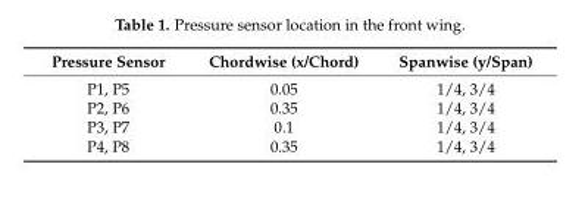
<table><thead><tr><td>Pressure Sensor</td><td>Chordwise (x/Chord)</td><td>Spanwise (y/Span)</td></tr></thead><tbody><tr><td>P1, P5</td><td>0.05</td><td>1/4, 3/4</td></tr><tr><td>P2, P6</td><td>0.35</td><td>1/4, 3/4</td></tr><tr><td>P3, P7</td><td>0.1</td><td>1/4, 3/4</td></tr><tr><td>P4, P8</td><td>0.35</td><td>1/4, 3/4</td></tr></tbody></table>